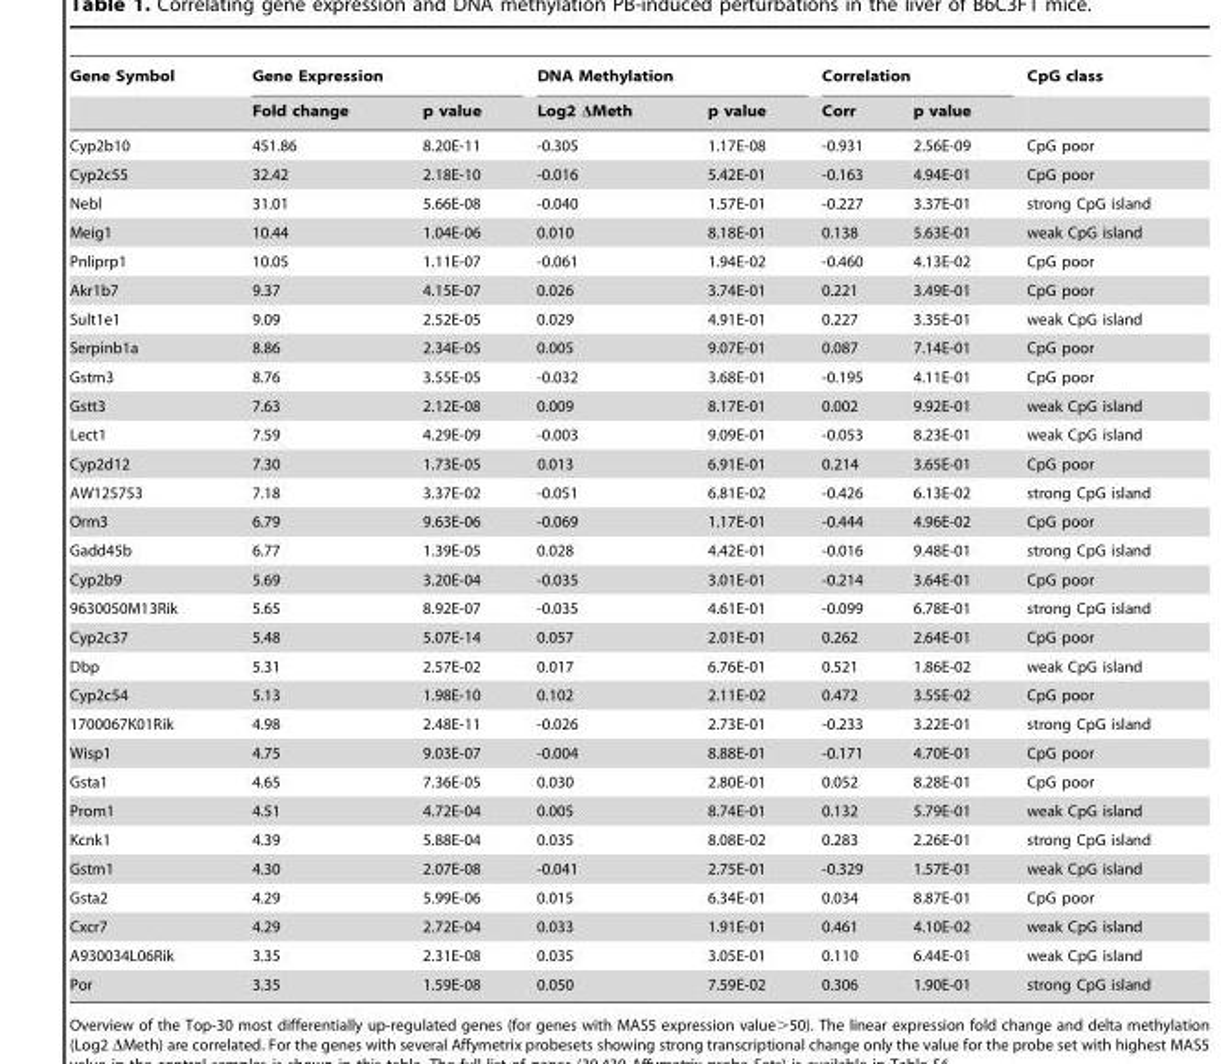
<table><thead><tr><td rowspan="2">Gene Symbol</td><td colspan="2">Gene Expression</td><td colspan="2">DNA Methylation</td><td colspan="2">Correlation</td><td rowspan="2">CpG class</td></tr><tr><td>Fold change</td><td>p value</td><td>Log2 ΔMeth</td><td>p value</td><td>Corr</td><td>p value</td></tr></thead><tbody><tr><td>Cyp2b10</td><td>451.86</td><td>8.20E-11</td><td>-0.305</td><td>1.17E-08</td><td>-0.931</td><td>2.56E-09</td><td>CpG poor</td></tr><tr><td>Cyp2c55</td><td>32.42</td><td>2.18E-10</td><td>-0.016</td><td>5.42E-01</td><td>-0.163</td><td>4.94E-01</td><td>CpG poor</td></tr><tr><td>Nebl</td><td>31.01</td><td>5.66E-08</td><td>-0.040</td><td>1.57E-01</td><td>-0.227</td><td>3.37E-01</td><td>strong CpG island</td></tr><tr><td>Meig1</td><td>10.44</td><td>1.04E-06</td><td>0.010</td><td>8.18E-01</td><td>0.138</td><td>5.63E-01</td><td>weak CpG island</td></tr><tr><td>Pnliprp1</td><td>10.05</td><td>1.11E-07</td><td>-0.061</td><td>1.94E-02</td><td>-0.460</td><td>4.13E-02</td><td>CpG poor</td></tr><tr><td>Akr1b7</td><td>9.37</td><td>4.15E-07</td><td>0.026</td><td>3.74E-01</td><td>0.221</td><td>3.49E-01</td><td>CpG poor</td></tr><tr><td>Sult1e1</td><td>9.09</td><td>2.52E-05</td><td>0.029</td><td>4.91E-01</td><td>0.227</td><td>3.35E-01</td><td>weak CpG island</td></tr><tr><td>Serpinb1a</td><td>8.86</td><td>2.34E-05</td><td>0.005</td><td>9.07E-01</td><td>0.087</td><td>7.14E-01</td><td>CpG poor</td></tr><tr><td>Gstm3</td><td>8.76</td><td>3.55E-05</td><td>-0.032</td><td>3.68E-01</td><td>-0.195</td><td>4.11E-01</td><td>CpG poor</td></tr><tr><td>Gstt3</td><td>7.63</td><td>2.12E-08</td><td>0.009</td><td>8.17E-01</td><td>0.002</td><td>9.92E-01</td><td>weak CpG island</td></tr><tr><td>Lect1</td><td>7.59</td><td>4.29E-09</td><td>-0.003</td><td>9.09E-01</td><td>-0.053</td><td>8.23E-01</td><td>weak CpG island</td></tr><tr><td>Cyp2d12</td><td>7.30</td><td>1.73E-05</td><td>0.013</td><td>6.91E-01</td><td>0.214</td><td>3.65E-01</td><td>CpG poor</td></tr><tr><td>AW125753</td><td>7.18</td><td>3.37E-02</td><td>-0.051</td><td>6.81E-02</td><td>-0.426</td><td>6.13E-02</td><td>strong CpG island</td></tr><tr><td>Orm3</td><td>6.79</td><td>9.63E-06</td><td>-0.069</td><td>1.17E-01</td><td>-0.444</td><td>4.96E-02</td><td>CpG poor</td></tr><tr><td>Gadd45b</td><td>6.77</td><td>1.39E-05</td><td>0.028</td><td>4.42E-01</td><td>-0.016</td><td>9.48E-01</td><td>strong CpG island</td></tr><tr><td>Cyp2b9</td><td>5.69</td><td>3.20E-04</td><td>-0.035</td><td>3.01E-01</td><td>-0.214</td><td>3.64E-01</td><td>CpG poor</td></tr><tr><td>9630050M13Rik</td><td>5.65</td><td>8.92E-07</td><td>-0.035</td><td>4.61E-01</td><td>-0.099</td><td>6.78E-01</td><td>strong CpG island</td></tr><tr><td>Cyp2c37</td><td>5.48</td><td>5.07E-14</td><td>0.057</td><td>2.01E-01</td><td>0.262</td><td>2.64E-01</td><td>CpG poor</td></tr><tr><td>Dbp</td><td>5.31</td><td>2.57E-02</td><td>0.017</td><td>6.76E-01</td><td>0.521</td><td>1.86E-02</td><td>weak CpG island</td></tr><tr><td>Cyp2c54</td><td>5.13</td><td>1.98E-10</td><td>0.102</td><td>2.11E-02</td><td>0.472</td><td>3.55E-02</td><td>CpG poor</td></tr><tr><td>1700067K01Rik</td><td>4.98</td><td>2.48E-11</td><td>-0.026</td><td>2.73E-01</td><td>-0.233</td><td>3.22E-01</td><td>strong CpG island</td></tr><tr><td>Wisp1</td><td>4.75</td><td>9.03E-07</td><td>-0.004</td><td>8.88E-01</td><td>-0.171</td><td>4.70E-01</td><td>CpG poor</td></tr><tr><td>Gsta1</td><td>4.65</td><td>7.36E-05</td><td>0.030</td><td>2.80E-01</td><td>0.052</td><td>8.28E-01</td><td>CpG poor</td></tr><tr><td>Prom1</td><td>4.51</td><td>4.72E-04</td><td>0.005</td><td>8.74E-01</td><td>0.132</td><td>5.79E-01</td><td>weak CpG island</td></tr><tr><td>Kcnk1</td><td>4.39</td><td>5.88E-04</td><td>0.035</td><td>8.08E-02</td><td>0.283</td><td>2.26E-01</td><td>strong CpG island</td></tr><tr><td>Gstm1</td><td>4.30</td><td>2.07E-08</td><td>-0.041</td><td>2.75E-01</td><td>-0.329</td><td>1.57E-01</td><td>weak CpG island</td></tr><tr><td>Gsta2</td><td>4.29</td><td>5.99E-06</td><td>0.015</td><td>6.34E-01</td><td>0.034</td><td>8.87E-01</td><td>CpG poor</td></tr><tr><td>Cxcr7</td><td>4.29</td><td>2.72E-04</td><td>0.033</td><td>1.91E-01</td><td>0.461</td><td>4.10E-02</td><td>weak CpG island</td></tr><tr><td>A930034L06Rik</td><td>3.35</td><td>2.31E-08</td><td>0.035</td><td>3.05E-01</td><td>0.110</td><td>6.44E-01</td><td>weak CpG island</td></tr><tr><td>Por</td><td>3.35</td><td>1.59E-08</td><td>0.050</td><td>7.59E-02</td><td>0.306</td><td>1.90E-01</td><td>strong CpG island</td></tr></tbody></table>